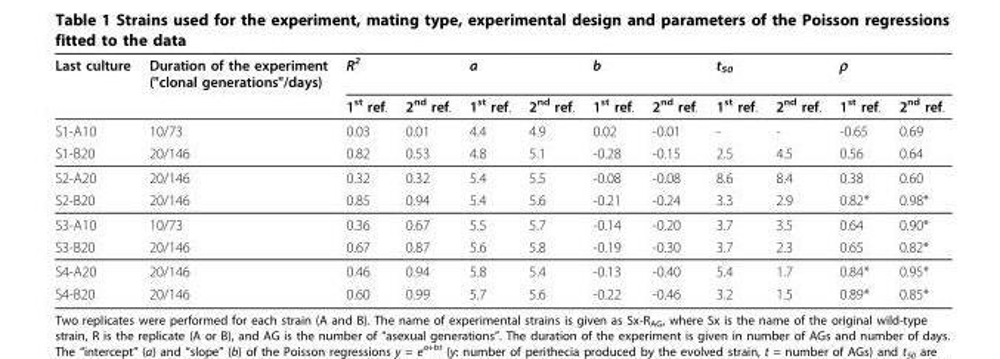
<table><thead><tr><td rowspan="2">Last culture</td><td rowspan="2">Duration of the experiment (&quot;clonal generations&quot;/days)</td><td rowspan="2">R<sup>2</sup> 1<sup>st</sup> ref.</td><td rowspan="2">2<sup>nd</sup> ref.</td><td rowspan="2">a 1<sup>st</sup> ref.</td><td rowspan="2">2<sup>nd</sup> ref.</td><td rowspan="2">b 1<sup>st</sup> ref.</td><td rowspan="2">2<sup>nd</sup> ref.</td><td rowspan="2">t<sub>50</sub> 1<sup>st</sup> ref.</td><td rowspan="2">2<sup>nd</sup> ref.</td><td rowspan="2">ρ 1<sup>st</sup> ref.</td><td rowspan="2">2<sup>nd</sup> ref.</td></tr><tr></tr></thead><tbody><tr><td>S1-A10</td><td>10/73</td><td>0.03</td><td>0.01</td><td>4.4</td><td>4.9</td><td>0.02</td><td>-0.01</td><td>-</td><td>-</td><td>-0.65</td><td>0.69</td></tr><tr><td>S1-B20</td><td>20/146</td><td>0.82</td><td>0.53</td><td>4.8</td><td>5.1</td><td>-0.28</td><td>-0.15</td><td>2.5</td><td>4.5</td><td>0.56</td><td>0.64</td></tr><tr><td>S2-A20</td><td>20/146</td><td>0.32</td><td>0.32</td><td>5.4</td><td>5.5</td><td>-0.08</td><td>-0.08</td><td>8.6</td><td>8.4</td><td>0.38</td><td>0.60</td></tr><tr><td>S2-B20</td><td>20/146</td><td>0.85</td><td>0.94</td><td>5.4</td><td>5.6</td><td>-0.21</td><td>-0.24</td><td>3.3</td><td>2.9</td><td>0.82*</td><td>0.98*</td></tr><tr><td>S3-A10</td><td>10/73</td><td>0.36</td><td>0.67</td><td>5.5</td><td>5.7</td><td>-0.14</td><td>-0.20</td><td>3.7</td><td>3.5</td><td>0.64</td><td>0.90*</td></tr><tr><td>S3-B20</td><td>20/146</td><td>0.67</td><td>0.87</td><td>5.6</td><td>5.8</td><td>-0.19</td><td>-0.30</td><td>3.7</td><td>2.3</td><td>0.65</td><td>0.82*</td></tr><tr><td>S4-A20</td><td>20/146</td><td>0.46</td><td>0.94</td><td>5.8</td><td>5.4</td><td>-0.13</td><td>-0.40</td><td>5.4</td><td>1.7</td><td>0.84*</td><td>0.95*</td></tr><tr><td>S4-B20</td><td>20/146</td><td>0.60</td><td>0.99</td><td>5.7</td><td>5.6</td><td>-0.22</td><td>-0.46</td><td>3.2</td><td>1.5</td><td>0.89*</td><td>0.85*</td></tr></tbody></table>